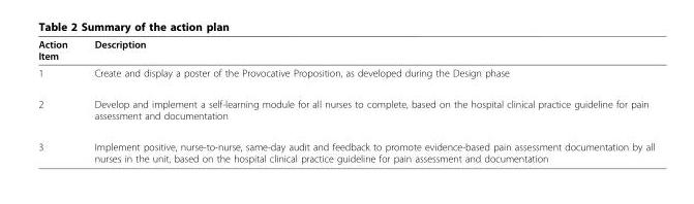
<table><thead><tr><td>Action Item</td><td>Description</td></tr></thead><tbody><tr><td>1</td><td>Create and display a poster of the Provocative Proposition, as developed during the Design phase</td></tr><tr><td>2</td><td>Develop and implement a self-learning module for all nurses to complete, based on the hospital clinical practice guideline for pain assessment and documentation</td></tr><tr><td>3</td><td>Implement positive, nurse-to-nurse, same-day audit and feedback to promote evidence-based pain assessment documentation by all nurses in the unit, based on the hospital clinical practice guideline for pain assessment and documentation</td></tr></tbody></table>